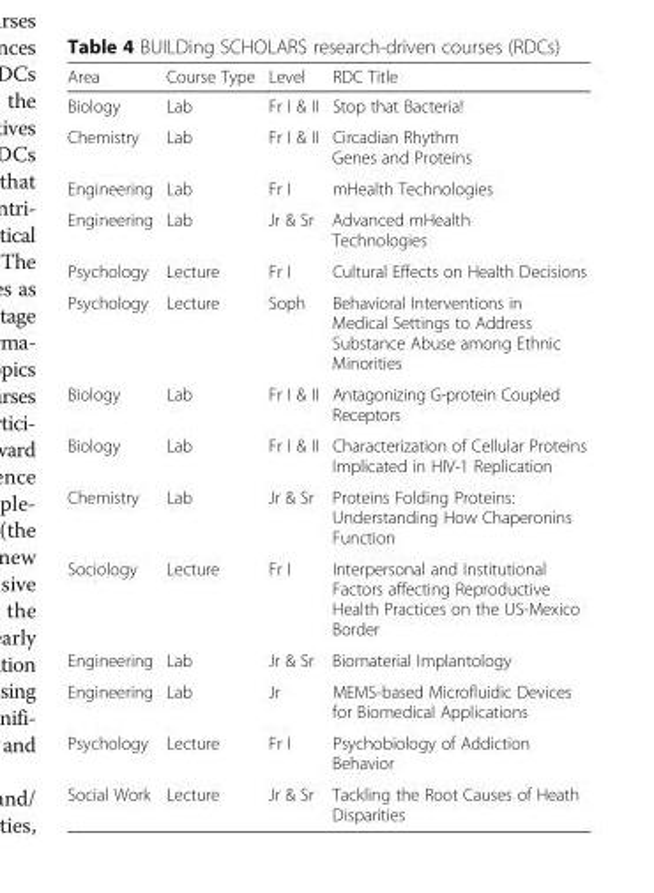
<table><thead><tr><td>Area</td><td>Course Type</td><td>Level</td><td>RDC Title</td></tr></thead><tbody><tr><td>Biology</td><td>Lab</td><td>Fr I &amp; II</td><td>Stop that Bacteria!</td></tr><tr><td>Chemistry</td><td>Lab</td><td>Fr I &amp; II</td><td>Circadian Rhythm Genes and Proteins</td></tr><tr><td>Engineering</td><td>Lab</td><td>Fr I</td><td>mHealth Technologies</td></tr><tr><td>Engineering</td><td>Lab</td><td>Jr &amp; Sr</td><td>Advanced mHealth Technologies</td></tr><tr><td>Psychology</td><td>Lecture</td><td>Fr I</td><td>Cultural Effects on Health Decisions</td></tr><tr><td>Psychology</td><td>Lecture</td><td>Soph</td><td>Behavioral Interventions in Medical Settings to Address Substance Abuse among Ethnic Minorities</td></tr><tr><td>Biology</td><td>Lab</td><td>Fr I &amp; II</td><td>Antagonizing G-protein Coupled Receptors</td></tr><tr><td>Biology</td><td>Lab</td><td>Fr I &amp; II</td><td>Characterization of Cellular Proteins Implicated in HIV-1 Replication</td></tr><tr><td>Chemistry</td><td>Lab</td><td>Jr &amp; Sr</td><td>Proteins Folding Proteins: Understanding How Chaperonins Function</td></tr><tr><td>Sociology</td><td>Lecture</td><td>Fr I</td><td>Interpersonal and Institutional Factors affecting Reproductive Health Practices on the US-Mexico Border</td></tr><tr><td>Engineering</td><td>Lab</td><td>Jr &amp; Sr</td><td>Biomaterial Implantology</td></tr><tr><td>Engineering</td><td>Lab</td><td>Jr</td><td>MEMS-based Microfluidic Devices for Biomedical Applications</td></tr><tr><td>Psychology</td><td>Lecture</td><td>Fr I</td><td>Psychobiology of Addiction Behavior</td></tr><tr><td>Social Work</td><td>Lecture</td><td>Jr &amp; Sr</td><td>Tackling the Root Causes of Heath Disparities</td></tr></tbody></table>